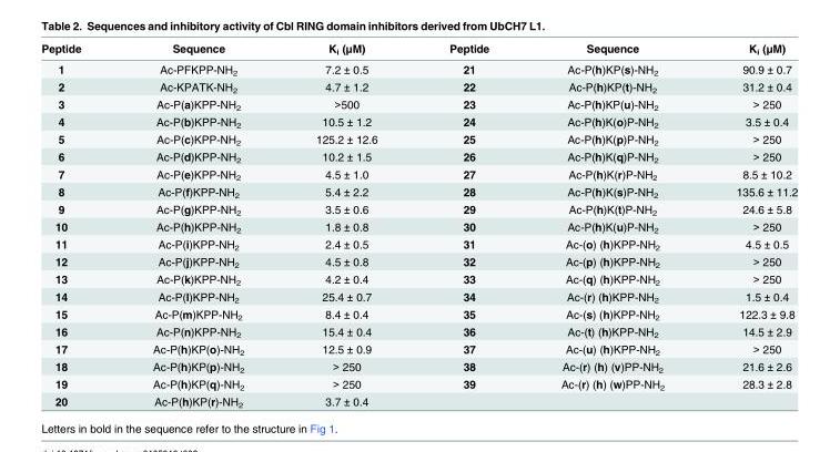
<table><thead><tr><td>Peptide</td><td>Sequence</td><td>K<sub>i</sub> (μM)</td><td>Peptide</td><td>Sequence</td><td>K<sub>i</sub> (μM)</td></tr></thead><tbody><tr><td>1</td><td>Ac-PFKPP-NH<sub>2</sub></td><td>7.2 ± 0.5</td><td>21</td><td>Ac-P(h)KP(s)-NH<sub>2</sub></td><td>90.9 ± 0.7</td></tr><tr><td>2</td><td>Ac-KPATK-NH<sub>2</sub></td><td>4.7 ± 1.2</td><td>22</td><td>Ac-P(h)KP(t)-NH<sub>2</sub></td><td>31.2 ± 0.4</td></tr><tr><td>3</td><td>Ac-P(a)KPP-NH<sub>2</sub></td><td>&gt;500</td><td>23</td><td>Ac-P(h)KP(u)-NH<sub>2</sub></td><td>&gt; 250</td></tr><tr><td>4</td><td>Ac-P(b)KPP-NH<sub>2</sub></td><td>10.5 ± 1.2</td><td>24</td><td>Ac-P(h)K(o)P-NH<sub>2</sub></td><td>3.5 ± 0.4</td></tr><tr><td>5</td><td>Ac-P(c)KPP-NH<sub>2</sub></td><td>125.2 ± 12.6</td><td>25</td><td>Ac-P(h)K(p)P-NH<sub>2</sub></td><td>&gt; 250</td></tr><tr><td>6</td><td>Ac-P(d)KPP-NH<sub>2</sub></td><td>10.2 ± 1.5</td><td>26</td><td>Ac-P(h)K(q)P-NH<sub>2</sub></td><td>&gt; 250</td></tr><tr><td>7</td><td>Ac-P(e)KPP-NH<sub>2</sub></td><td>4.5 ± 1.0</td><td>27</td><td>Ac-P(h)K(r)P-NH<sub>2</sub></td><td>8.5 ± 10.2</td></tr><tr><td>8</td><td>Ac-P(f)KPP-NH<sub>2</sub></td><td>5.4 ± 2.2</td><td>28</td><td>Ac-P(h)K(s)P-NH<sub>2</sub></td><td>135.6 ± 11.2</td></tr><tr><td>9</td><td>Ac-P(g)KPP-NH<sub>2</sub></td><td>3.5 ± 0.6</td><td>29</td><td>Ac-P(h)K(t)P-NH<sub>2</sub></td><td>24.6 ± 5.8</td></tr><tr><td>10</td><td>Ac-P(h)KPP-NH<sub>2</sub></td><td>1.8 ± 0.8</td><td>30</td><td>Ac-P(h)K(u)P-NH<sub>2</sub></td><td>&gt; 250</td></tr><tr><td>11</td><td>Ac-P(i)KPP-NH<sub>2</sub></td><td>2.4 ± 0.5</td><td>31</td><td>Ac-(o) (h)KPP-NH<sub>2</sub></td><td>4.5 ± 0.5</td></tr><tr><td>12</td><td>Ac-P(j)KPP-NH<sub>2</sub></td><td>4.5 ± 0.8</td><td>32</td><td>Ac-(p) (h)KPP-NH<sub>2</sub></td><td>&gt; 250</td></tr><tr><td>13</td><td>Ac-P(k)KPP-NH<sub>2</sub></td><td>4.2 ± 0.4</td><td>33</td><td>Ac-(q) (h)KPP-NH<sub>2</sub></td><td>&gt; 250</td></tr><tr><td>14</td><td>Ac-P(l)KPP-NH<sub>2</sub></td><td>25.4 ± 0.7</td><td>34</td><td>Ac-(r) (h)KPP-NH<sub>2</sub></td><td>1.5 ± 0.4</td></tr><tr><td>15</td><td>Ac-P(m)KPP-NH<sub>2</sub></td><td>8.4 ± 0.4</td><td>35</td><td>Ac-(s) (h)KPP-NH<sub>2</sub></td><td>122.3 ± 9.8</td></tr><tr><td>16</td><td>Ac-P(n)KPP-NH<sub>2</sub></td><td>15.4 ± 0.4</td><td>36</td><td>Ac-(t) (h)KPP-NH<sub>2</sub></td><td>14.5 ± 2.9</td></tr><tr><td>17</td><td>Ac-P(h)KP(o)-NH<sub>2</sub></td><td>12.5 ± 0.9</td><td>37</td><td>Ac-(u) (h)KPP-NH<sub>2</sub></td><td>&gt; 250</td></tr><tr><td>18</td><td>Ac-P(h)KP(p)-NH<sub>2</sub></td><td>&gt; 250</td><td>38</td><td>Ac-(r) (h) (v)PP-NH<sub>2</sub></td><td>21.6 ± 2.6</td></tr><tr><td>19</td><td>Ac-P(h)KP(q)-NH<sub>2</sub></td><td>&gt; 250</td><td>39</td><td>Ac-(r) (h) (w)PP-NH<sub>2</sub></td><td>28.3 ± 2.8</td></tr><tr><td>20</td><td>Ac-P(h)KP(r)-NH<sub>2</sub></td><td>3.7 ± 0.4</td><td></td><td></td><td></td></tr></tbody></table>